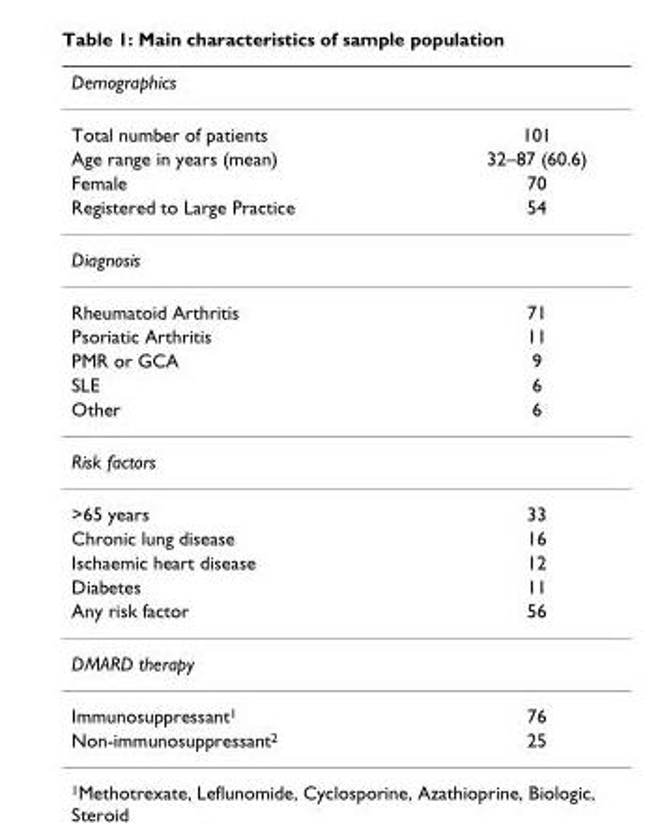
<table><thead><tr><td>Demographics</td><td></td></tr></thead><tbody><tr><td>Total number of patients</td><td>101</td></tr><tr><td>Age range in years (mean)</td><td>32–87 (60.6)</td></tr><tr><td>Female</td><td>70</td></tr><tr><td>Registered to Large Practice</td><td>54</td></tr><tr><td colspan="2">Diagnosis</td></tr><tr><td>Rheumatoid Arthritis</td><td>71</td></tr><tr><td>Psoriatic Arthritis</td><td>11</td></tr><tr><td>PMR or GCA</td><td>9</td></tr><tr><td>SLE</td><td>6</td></tr><tr><td>Other</td><td>6</td></tr><tr><td colspan="2">Risk factors</td></tr><tr><td>&gt;65 years</td><td>33</td></tr><tr><td>Chronic lung disease</td><td>16</td></tr><tr><td>Ischaemic heart disease</td><td>12</td></tr><tr><td>Diabetes</td><td>11</td></tr><tr><td>Any risk factor</td><td>56</td></tr><tr><td colspan="2">DMARD therapy</td></tr><tr><td>Immunosuppressant<sup>1</sup></td><td>76</td></tr><tr><td>Non-immunosuppressant<sup>2</sup></td><td>25</td></tr></tbody></table>